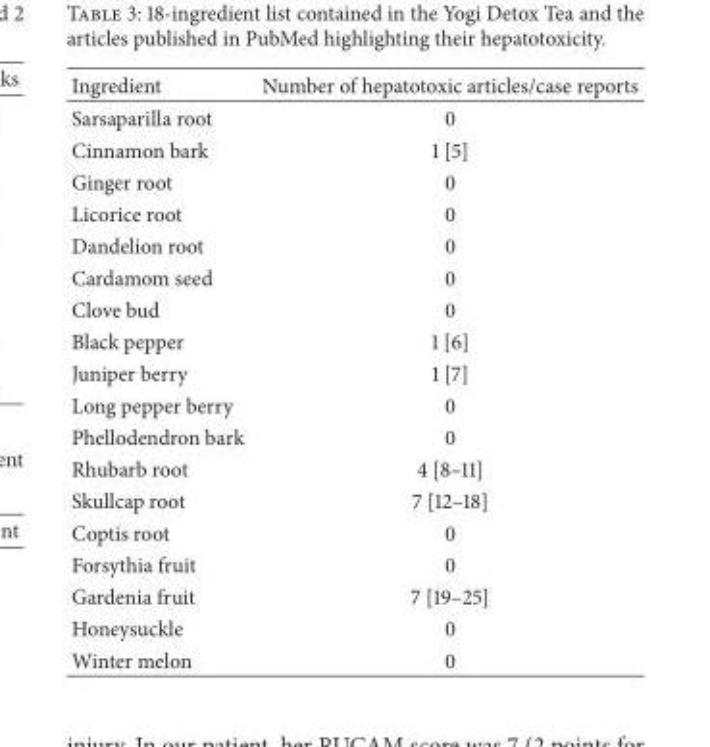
<table><thead><tr><td>Ingredient</td><td>Number of hepatotoxic articles/case reports</td></tr></thead><tbody><tr><td>Sarsaparilla root</td><td>0</td></tr><tr><td>Cinnamon bark</td><td>1 [5]</td></tr><tr><td>Ginger root</td><td>0</td></tr><tr><td>Licorice root</td><td>0</td></tr><tr><td>Dandelion root</td><td>0</td></tr><tr><td>Cardamom seed</td><td>0</td></tr><tr><td>Clove bud</td><td>0</td></tr><tr><td>Black pepper</td><td>1 [6]</td></tr><tr><td>Juniper berry</td><td>1 [7]</td></tr><tr><td>Long pepper berry</td><td>0</td></tr><tr><td>Phellodendron bark</td><td>0</td></tr><tr><td>Rhubarb root</td><td>4 [8–11]</td></tr><tr><td>Skullcap root</td><td>7 [12–18]</td></tr><tr><td>Coptis root</td><td>0</td></tr><tr><td>Forsythia fruit</td><td>0</td></tr><tr><td>Gardenia fruit</td><td>7 [19–25]</td></tr><tr><td>Honeysuckle</td><td>0</td></tr><tr><td>Winter melon</td><td>0</td></tr></tbody></table>